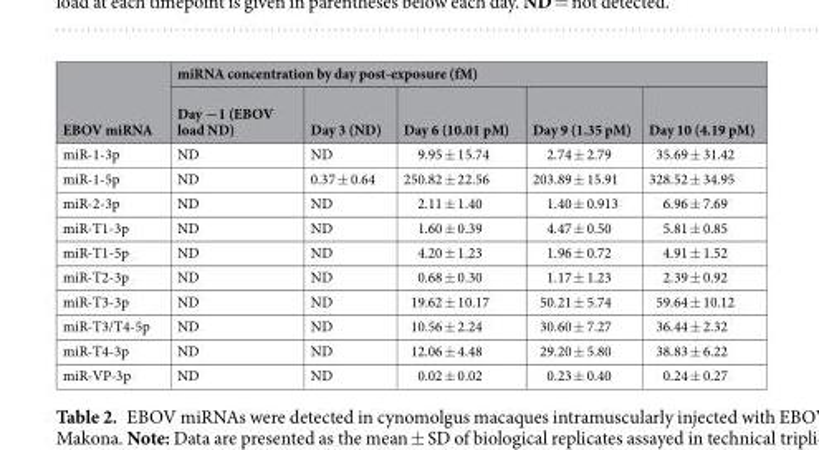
<table><thead><tr><td rowspan="2">EBOV miRNA</td><td colspan="5">miRNA concentration by day post-exposure (fM)</td></tr><tr><td>Day −1 (EBOV load ND)</td><td>Day 3 (ND)</td><td>Day 6 (10.01 pM)</td><td>Day 9 (1.35 pM)</td><td>Day 10 (4.19 pM)</td></tr></thead><tbody><tr><td>miR-1-3p</td><td>ND</td><td>ND</td><td>9.95 ± 15.74</td><td>2.74 ± 2.79</td><td>35.69 ± 31.42</td></tr><tr><td>miR-1-5p</td><td>ND</td><td>0.37 ± 0.64</td><td>250.82 ± 22.56</td><td>203.89 ± 15.91</td><td>328.52 ± 34.95</td></tr><tr><td>miR-2-3p</td><td>ND</td><td>ND</td><td>2.11 ± 1.40</td><td>1.40 ± 0.913</td><td>6.96 ± 7.69</td></tr><tr><td>miR-T1-3p</td><td>ND</td><td>ND</td><td>1.60 ± 0.39</td><td>4.47 ± 0.50</td><td>5.81 ± 0.85</td></tr><tr><td>miR-T1-5p</td><td>ND</td><td>ND</td><td>4.20 ± 1.23</td><td>1.96 ± 0.72</td><td>4.91 ± 1.52</td></tr><tr><td>miR-T2-3p</td><td>ND</td><td>ND</td><td>0.68 ± 0.30</td><td>1.17 ± 1.23</td><td>2.39 ± 0.92</td></tr><tr><td>miR-T3-3p</td><td>ND</td><td>ND</td><td>19.62 ± 10.17</td><td>50.21 ± 5.74</td><td>59.64 ± 10.12</td></tr><tr><td>miR-T3/T4-5p</td><td>ND</td><td>ND</td><td>10.56 ± 2.24</td><td>30.60 ± 7.27</td><td>36.44 ± 2.32</td></tr><tr><td>miR-T4-3p</td><td>ND</td><td>ND</td><td>12.06 ± 4.48</td><td>29.20 ± 5.80</td><td>38.83 ± 6.22</td></tr><tr><td>miR-VP-3p</td><td>ND</td><td>ND</td><td>0.02 ± 0.02</td><td>0.23 ± 0.40</td><td>0.24 ± 0.27</td></tr></tbody></table>